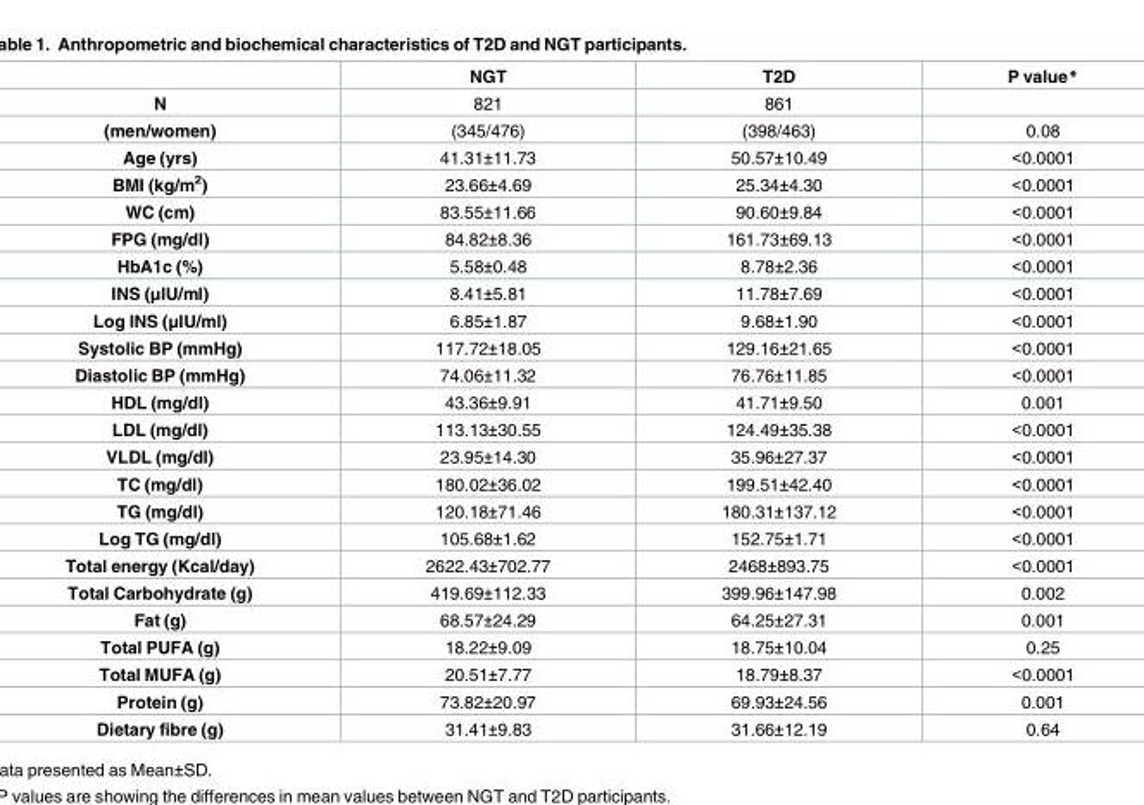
<table><thead><tr><td></td><td>NGT</td><td>T2D</td><td>P value*</td></tr></thead><tbody><tr><td>N</td><td>821</td><td>861</td><td></td></tr><tr><td>(men/women)</td><td>(345/476)</td><td>(398/463)</td><td>0.08</td></tr><tr><td>Age (yrs)</td><td>41.31±11.73</td><td>50.57±10.49</td><td>&lt;0.0001</td></tr><tr><td>BMI (kg/m<sup>2</sup>)</td><td>23.66±4.69</td><td>25.34±4.30</td><td>&lt;0.0001</td></tr><tr><td>WC (cm)</td><td>83.55±11.66</td><td>90.60±9.84</td><td>&lt;0.0001</td></tr><tr><td>FPG (mg/dl)</td><td>84.82±8.36</td><td>161.73±69.13</td><td>&lt;0.0001</td></tr><tr><td>HbA1c (%)</td><td>5.58±0.48</td><td>8.78±2.36</td><td>&lt;0.0001</td></tr><tr><td>INS (μIU/ml)</td><td>8.41±5.81</td><td>11.78±7.69</td><td>&lt;0.0001</td></tr><tr><td>Log INS (μIU/ml)</td><td>6.85±1.87</td><td>9.68±1.90</td><td>&lt;0.0001</td></tr><tr><td>Systolic BP (mmHg)</td><td>117.72±18.05</td><td>129.16±21.65</td><td>&lt;0.0001</td></tr><tr><td>Diastolic BP (mmHg)</td><td>74.06±11.32</td><td>76.76±11.85</td><td>&lt;0.0001</td></tr><tr><td>HDL (mg/dl)</td><td>43.36±9.91</td><td>41.71±9.50</td><td>0.001</td></tr><tr><td>LDL (mg/dl)</td><td>113.13±30.55</td><td>124.49±35.38</td><td>&lt;0.0001</td></tr><tr><td>VLDL (mg/dl)</td><td>23.95±14.30</td><td>35.96±27.37</td><td>&lt;0.0001</td></tr><tr><td>TC (mg/dl)</td><td>180.02±36.02</td><td>199.51±42.40</td><td>&lt;0.0001</td></tr><tr><td>TG (mg/dl)</td><td>120.18±71.46</td><td>180.31±137.12</td><td>&lt;0.0001</td></tr><tr><td>Log TG (mg/dl)</td><td>105.68±1.62</td><td>152.75±1.71</td><td>&lt;0.0001</td></tr><tr><td>Total energy (Kcal/day)</td><td>2622.43±702.77</td><td>2468±893.75</td><td>&lt;0.0001</td></tr><tr><td>Total Carbohydrate (g)</td><td>419.69±112.33</td><td>399.96±147.98</td><td>0.002</td></tr><tr><td>Fat (g)</td><td>68.57±24.29</td><td>64.25±27.31</td><td>0.001</td></tr><tr><td>Total PUFA (g)</td><td>18.22±9.09</td><td>18.75±10.04</td><td>0.25</td></tr><tr><td>Total MUFA (g)</td><td>20.51±7.77</td><td>18.79±8.37</td><td>&lt;0.0001</td></tr><tr><td>Protein (g)</td><td>73.82±20.97</td><td>69.93±24.56</td><td>0.001</td></tr><tr><td>Dietary fibre (g)</td><td>31.41±9.83</td><td>31.66±12.19</td><td>0.64</td></tr></tbody></table>